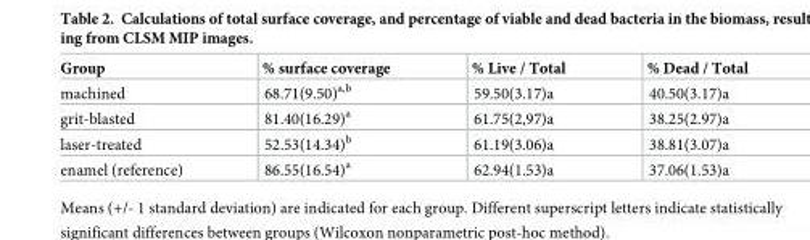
<table><thead><tr><td>Group</td><td>% surface coverage</td><td>% Live / Total</td><td>% Dead / Total</td></tr></thead><tbody><tr><td>machined</td><td>68.71(9.50)<sup>a,b</sup></td><td>59.50(3.17)a</td><td>40.50(3.17)a</td></tr><tr><td>grit-blasted</td><td>81.40(16.29)<sup>a</sup></td><td>61.75(2,97)a</td><td>38.25(2.97)a</td></tr><tr><td>laser-treated</td><td>52.53(14.34)<sup>b</sup></td><td>61.19(3.06)a</td><td>38.81(3.07)a</td></tr><tr><td>enamel (reference)</td><td>86.55(16.54)<sup>a</sup></td><td>62.94(1.53)a</td><td>37.06(1.53)a</td></tr></tbody></table>